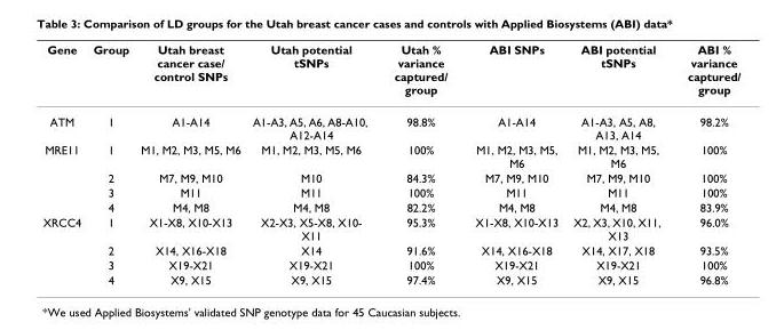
<table><thead><tr><td>Gene</td><td>Group</td><td>Utah breast cancer case/ control SNPs</td><td>Utah potential tSNPs</td><td>Utah % variance captured/ group</td><td>ABI SNPs</td><td>ABI potential tSNPs</td><td>ABI % variance captured/ group</td></tr></thead><tbody><tr><td>ATM</td><td>1</td><td>A1-A14</td><td>A1-A3, A5, A6, A8-A10, A12-A14</td><td>98.8%</td><td>A1-A14</td><td>A1-A3, A5, A8, A13, A14</td><td>98.2%</td></tr><tr><td rowspan="4">MRE11</td><td>1</td><td>M1, M2, M3, M5, M6</td><td>M1, M2, M3, M5, M6</td><td>100%</td><td>M1, M2, M3, M5, M6</td><td>M1, M2, M3, M5, M6</td><td>100%</td></tr><tr><td>2</td><td>M7, M9, M10</td><td>M10</td><td>84.3%</td><td>M7, M9, M10</td><td>M7, M9, M10</td><td>100%</td></tr><tr><td>3</td><td>M11</td><td>M11</td><td>100%</td><td>M11</td><td>M11</td><td>100%</td></tr><tr><td>4</td><td>M4, M8</td><td>M4, M8</td><td>82.2%</td><td>M4, M8</td><td>M4, M8</td><td>83.9%</td></tr><tr><td rowspan="4">XRCC4</td><td>1</td><td>X1-X8, X10-X13</td><td>X2-X3, X5-X8, X10- X11</td><td>95.3%</td><td>X1-X8, X10-X13</td><td>X2, X3, X10, X11, X13</td><td>96.0%</td></tr><tr><td>2</td><td>X14, X16-X18</td><td>X14</td><td>91.6%</td><td>X14, X16-X18</td><td>X14, X17, X18</td><td>93.5%</td></tr><tr><td>3</td><td>X19-X21</td><td>X19-X21</td><td>100%</td><td>X19-X21</td><td>X19-X21</td><td>100%</td></tr><tr><td>4</td><td>X9, X15</td><td>X9, X15</td><td>97.4%</td><td>X9, X15</td><td>X9, X15</td><td>96.8%</td></tr></tbody></table>